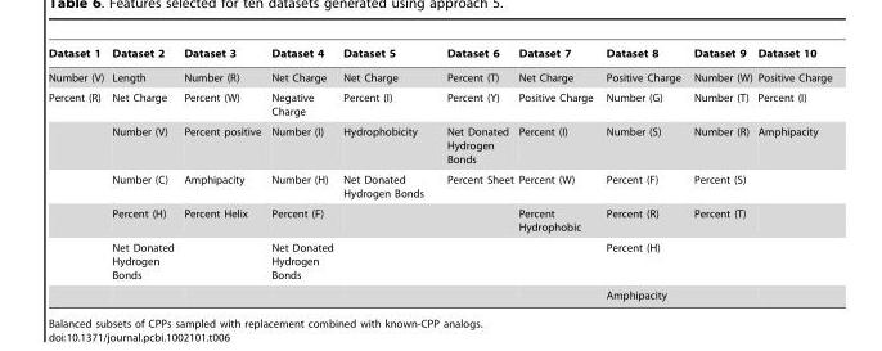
<table><thead><tr><td>Dataset 1</td><td>Dataset 2</td><td>Dataset 3</td><td>Dataset 4</td><td>Dataset 5</td><td>Dataset 6</td><td>Dataset 7</td><td>Dataset 8</td><td>Dataset 9</td><td>Dataset 10</td></tr></thead><tbody><tr><td>Number (V)</td><td>Length</td><td>Number (R)</td><td>Net Charge</td><td>Net Charge</td><td>Percent (T)</td><td>Net Charge</td><td>Positive Charge</td><td>Number (W)</td><td>Positive Charge</td></tr><tr><td rowspan="6">Percent (R)</td><td>Net Charge</td><td>Percent (W)</td><td>Negative Charge</td><td>Percent (I)</td><td>Percent (Y)</td><td>Positive Charge</td><td>Number (G)</td><td>Number (T)</td><td>Percent (I)</td></tr><tr><td>Number (V)</td><td>Percent positive</td><td>Number (I)</td><td>Hydrophobicity</td><td>Net Donated Hydrogen Bonds</td><td>Percent (I)</td><td>Number (S)</td><td>Number (R)</td><td>Amphipacity</td></tr><tr><td>Number (C)</td><td>Amphipacity</td><td>Number (H)</td><td>Net Donated Hydrogen Bonds</td><td>Percent Sheet</td><td>Percent (W)</td><td>Percent (F)</td><td>Percent (S)</td><td></td></tr><tr><td>Percent (H)</td><td>Percent Helix</td><td>Percent (F)</td><td></td><td></td><td>Percent Hydrophobic</td><td>Percent (R)</td><td>Percent (T)</td><td></td></tr><tr><td>Net Donated Hydrogen Bonds</td><td></td><td>Net Donated Hydrogen Bonds</td><td></td><td></td><td></td><td>Percent (H)</td><td></td><td></td></tr><tr><td></td><td></td><td></td><td></td><td></td><td></td><td>Amphipacity</td><td></td><td></td></tr></tbody></table>